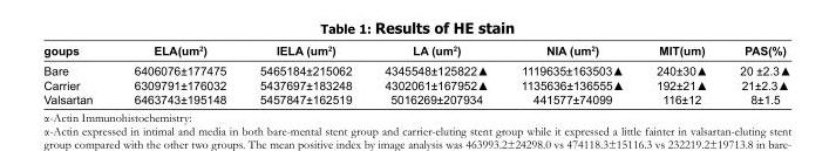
<table><thead><tr><td>goups</td><td>ELA(um<sup>2</sup>)</td><td>IELA (um<sup>2</sup>)</td><td>LA (um<sup>2</sup>)</td><td>NIA (um<sup>2</sup>)</td><td>MIT(um)</td><td>PAS(%)</td></tr></thead><tbody><tr><td>Bare</td><td>6406076±177475</td><td>5465184±215062</td><td>4345548±125822▲</td><td>1119635±163503▲</td><td>240±30▲</td><td>20 ±2.3▲</td></tr><tr><td>Carrier</td><td>6309791±176032</td><td>5437697±183248</td><td>4302061±167952▲</td><td>1135636±136555▲</td><td>192±21▲</td><td>21±2.3▲</td></tr><tr><td>Valsartan</td><td>6463743±195148</td><td>5457847±162519</td><td>5016269±207934</td><td>441577±74099</td><td>116±12</td><td>8±1.5</td></tr></tbody></table>